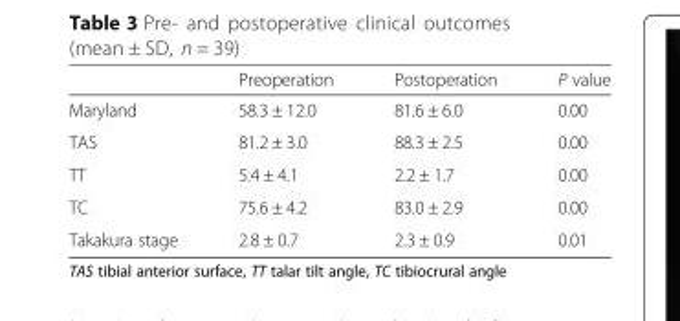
<table><thead><tr><td></td><td>Preoperation</td><td>Postoperation</td><td>P value</td></tr></thead><tbody><tr><td>Maryland</td><td>58.3 ± 12.0</td><td>81.6 ± 6.0</td><td>0.00</td></tr><tr><td>TAS</td><td>81.2 ± 3.0</td><td>88.3 ± 2.5</td><td>0.00</td></tr><tr><td>TT</td><td>5.4 ± 4.1</td><td>2.2 ± 1.7</td><td>0.00</td></tr><tr><td>TC</td><td>75.6 ± 4.2</td><td>83.0 ± 2.9</td><td>0.00</td></tr><tr><td>Takakura stage</td><td>2.8 ± 0.7</td><td>2.3 ± 0.9</td><td>0.01</td></tr></tbody></table>